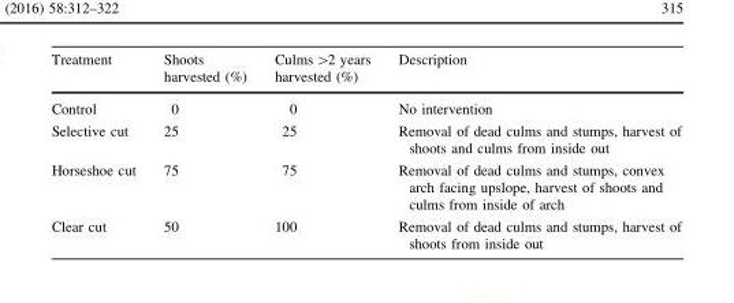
<table><thead><tr><td>Treatment</td><td>Shoots harvested (%)</td><td>Culms &gt;2 years harvested (%)</td><td>Description</td></tr></thead><tbody><tr><td>Control</td><td>0</td><td>0</td><td>No intervention</td></tr><tr><td>Selective cut</td><td>25</td><td>25</td><td>Removal of dead culms and stumps, harvest of shoots and culms from inside out</td></tr><tr><td>Horseshoe cut</td><td>75</td><td>75</td><td>Removal of dead culms and stumps, convex arch facing upslope, harvest of shoots and culms from inside of arch</td></tr><tr><td>Clear cut</td><td>50</td><td>100</td><td>Removal of dead culms and stumps, harvest of shoots from inside out</td></tr></tbody></table>